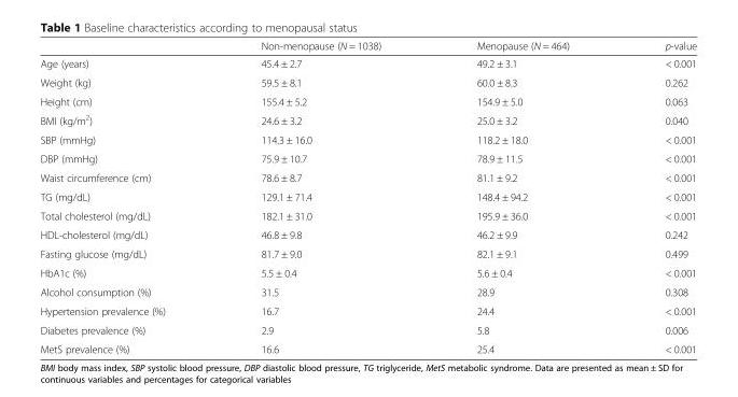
<table><thead><tr><td></td><td>Non-menopause (N = 1038)</td><td>Menopause (N = 464)</td><td>p-value</td></tr></thead><tbody><tr><td>Age (years)</td><td>45.4 ± 2.7</td><td>49.2 ± 3.1</td><td>&lt; 0.001</td></tr><tr><td>Weight (kg)</td><td>59.5 ± 8.1</td><td>60.0 ± 8.3</td><td>0.262</td></tr><tr><td>Height (cm)</td><td>155.4 ± 5.2</td><td>154.9 ± 5.0</td><td>0.063</td></tr><tr><td>BMI (kg/m<sup>2</sup>)</td><td>24.6 ± 3.2</td><td>25.0 ± 3.2</td><td>0.040</td></tr><tr><td>SBP (mmHg)</td><td>114.3 ± 16.0</td><td>118.2 ± 18.0</td><td>&lt; 0.001</td></tr><tr><td>DBP (mmHg)</td><td>75.9 ± 10.7</td><td>78.9 ± 11.5</td><td>&lt; 0.001</td></tr><tr><td>Waist circumference (cm)</td><td>78.6 ± 8.7</td><td>81.1 ± 9.2</td><td>&lt; 0.001</td></tr><tr><td>TG (mg/dL)</td><td>129.1 ± 71.4</td><td>148.4 ± 94.2</td><td>&lt; 0.001</td></tr><tr><td>Total cholesterol (mg/dL)</td><td>182.1 ± 31.0</td><td>195.9 ± 36.0</td><td>&lt; 0.001</td></tr><tr><td>HDL-cholesterol (mg/dL)</td><td>46.8 ± 9.8</td><td>46.2 ± 9.9</td><td>0.242</td></tr><tr><td>Fasting glucose (mg/dL)</td><td>81.7 ± 9.0</td><td>82.1 ± 9.1</td><td>0.499</td></tr><tr><td>HbA1c (%)</td><td>5.5 ± 0.4</td><td>5.6 ± 0.4</td><td>&lt; 0.001</td></tr><tr><td>Alcohol consumption (%)</td><td>31.5</td><td>28.9</td><td>0.308</td></tr><tr><td>Hypertension prevalence (%)</td><td>16.7</td><td>24.4</td><td>&lt; 0.001</td></tr><tr><td>Diabetes prevalence (%)</td><td>2.9</td><td>5.8</td><td>0.006</td></tr><tr><td>MetS prevalence (%)</td><td>16.6</td><td>25.4</td><td>&lt; 0.001</td></tr></tbody></table>